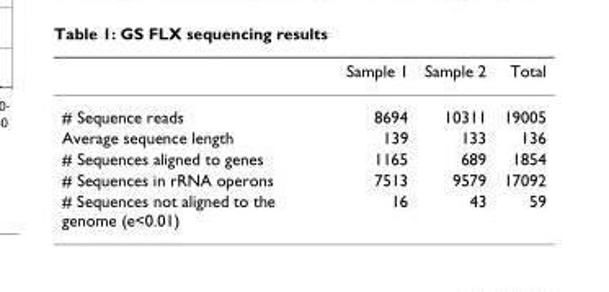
<table><thead><tr><td></td><td>Sample 1</td><td>Sample 2</td><td>Total</td></tr></thead><tbody><tr><td># Sequence reads</td><td>8694</td><td>10311</td><td>19005</td></tr><tr><td>Average sequence length</td><td>139</td><td>133</td><td>136</td></tr><tr><td># Sequences aligned to genes</td><td>1165</td><td>689</td><td>1854</td></tr><tr><td># Sequences in rRNA operons</td><td>7513</td><td>9579</td><td>17092</td></tr><tr><td># Sequences not aligned to the genome (e&lt;0.01)</td><td>16</td><td>43</td><td>59</td></tr></tbody></table>